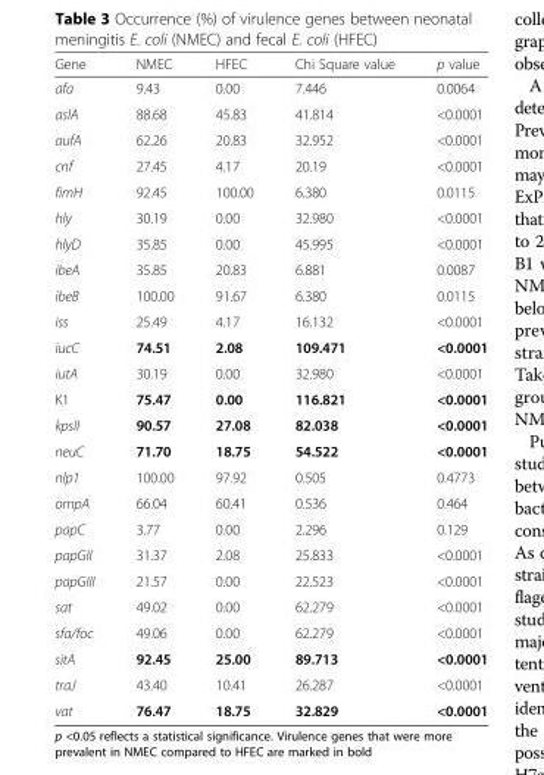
<table><thead><tr><td>Gene</td><td>NMEC</td><td>HFEC</td><td>Chi Square value</td><td>p value</td></tr></thead><tbody><tr><td>afa</td><td>9.43</td><td>0.00</td><td>7.446</td><td>0.0064</td></tr><tr><td>aslA</td><td>88.68</td><td>45.83</td><td>41.814</td><td>&lt;0.0001</td></tr><tr><td>aufA</td><td>62.26</td><td>20.83</td><td>32.952</td><td>&lt;0.0001</td></tr><tr><td>cnf</td><td>27.45</td><td>4.17</td><td>20.19</td><td>&lt;0.0001</td></tr><tr><td>fimH</td><td>92.45</td><td>100.00</td><td>6.380</td><td>0.0115</td></tr><tr><td>hly</td><td>30.19</td><td>0.00</td><td>32.980</td><td>&lt;0.0001</td></tr><tr><td>hlyD</td><td>35.85</td><td>0.00</td><td>45.995</td><td>&lt;0.0001</td></tr><tr><td>ibeA</td><td>35.85</td><td>20.83</td><td>6.881</td><td>0.0087</td></tr><tr><td>ibeB</td><td>100.00</td><td>91.67</td><td>6.380</td><td>0.0115</td></tr><tr><td>iss</td><td>25.49</td><td>4.17</td><td>16.132</td><td>&lt;0.0001</td></tr><tr><td>iucC</td><td>74.51</td><td>2.08</td><td>109.471</td><td>&lt;0.0001</td></tr><tr><td>iutA</td><td>30.19</td><td>0.00</td><td>32.980</td><td>&lt;0.0001</td></tr><tr><td>K1</td><td>75.47</td><td>0.00</td><td>116.821</td><td>&lt;0.0001</td></tr><tr><td>kpsII</td><td>90.57</td><td>27.08</td><td>82.038</td><td>&lt;0.0001</td></tr><tr><td>neuC</td><td>71.70</td><td>18.75</td><td>54.522</td><td>&lt;0.0001</td></tr><tr><td>nlp1</td><td>100.00</td><td>97.92</td><td>0.505</td><td>0.4773</td></tr><tr><td>ompA</td><td>66.04</td><td>60.41</td><td>0.536</td><td>0.464</td></tr><tr><td>papC</td><td>3.77</td><td>0.00</td><td>2.296</td><td>0.129</td></tr><tr><td>papGII</td><td>31.37</td><td>2.08</td><td>25.833</td><td>&lt;0.0001</td></tr><tr><td>papGIII</td><td>21.57</td><td>0.00</td><td>22.523</td><td>&lt;0.0001</td></tr><tr><td>sat</td><td>49.02</td><td>0.00</td><td>62.279</td><td>&lt;0.0001</td></tr><tr><td>sfa/foc</td><td>49.06</td><td>0.00</td><td>62.279</td><td>&lt;0.0001</td></tr><tr><td>sitA</td><td>92.45</td><td>25.00</td><td>89.713</td><td>&lt;0.0001</td></tr><tr><td>traJ</td><td>43.40</td><td>10.41</td><td>26.287</td><td>&lt;0.0001</td></tr><tr><td>vat</td><td>76.47</td><td>18.75</td><td>32.829</td><td>&lt;0.0001</td></tr></tbody></table>